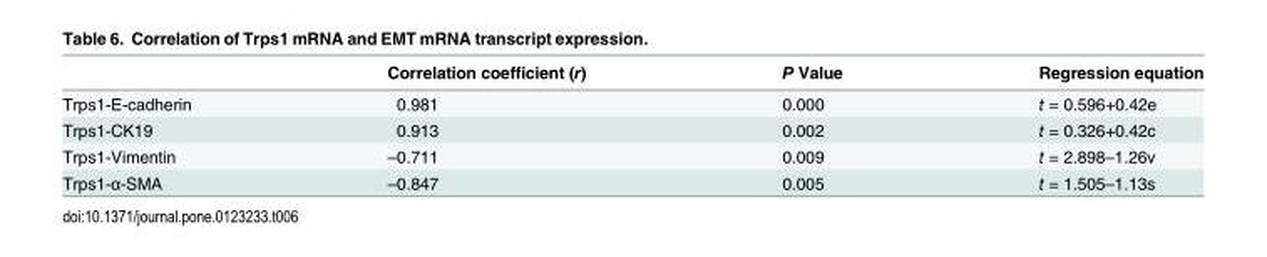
<table><thead><tr><td></td><td>Correlation coefficient (r)</td><td>P Value</td><td>Regression equation</td></tr></thead><tbody><tr><td>Trps1-E-cadherin</td><td>0.981</td><td>0.000</td><td>t = 0.596+0.42e</td></tr><tr><td>Trps1-CK19</td><td>0.913</td><td>0.002</td><td>t = 0.326+0.42c</td></tr><tr><td>Trps1-Vimentin</td><td>–0.711</td><td>0.009</td><td>t = 2.898–1.26v</td></tr><tr><td>Trps1-α-SMA</td><td>–0.847</td><td>0.005</td><td>t = 1.505–1.13s</td></tr></tbody></table>